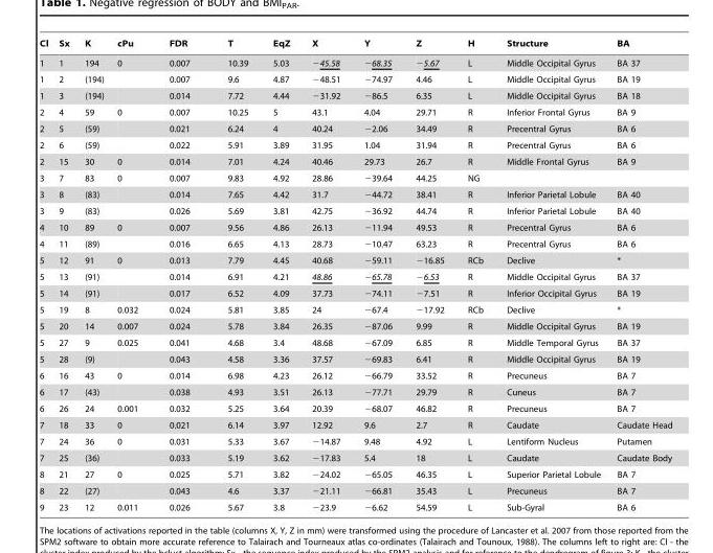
<table><thead><tr><td>Cl</td><td>Sx</td><td>K</td><td>cPu</td><td>FDR</td><td>T</td><td>EqZ</td><td>X</td><td>Y</td><td>Z</td><td>H</td><td>Structure</td><td>BA</td></tr></thead><tbody><tr><td>1</td><td>1</td><td>194</td><td>0</td><td>0.007</td><td>10.39</td><td>5.03</td><td>−45.58</td><td>−68.35</td><td>−5.67</td><td>L</td><td>Middle Occipital Gyrus</td><td>BA 37</td></tr><tr><td>1</td><td>2</td><td>(194)</td><td></td><td>0.007</td><td>9.6</td><td>4.87</td><td>−48.51</td><td>−74.97</td><td>4.46</td><td>L</td><td>Middle Occipital Gyrus</td><td>BA 19</td></tr><tr><td>1</td><td>3</td><td>(194)</td><td></td><td>0.014</td><td>7.72</td><td>4.44</td><td>−31.92</td><td>−86.5</td><td>6.35</td><td>L</td><td>Middle Occipital Gyrus</td><td>BA 18</td></tr><tr><td>2</td><td>4</td><td>59</td><td>0</td><td>0.007</td><td>10.25</td><td>5</td><td>43.1</td><td>4.04</td><td>29.71</td><td>R</td><td>Inferior Frontal Gyrus</td><td>BA 9</td></tr><tr><td>2</td><td>5</td><td>(59)</td><td></td><td>0.021</td><td>6.24</td><td>4</td><td>40.24</td><td>−2.06</td><td>34.49</td><td>R</td><td>Precentral Gyrus</td><td>BA 6</td></tr><tr><td>2</td><td>6</td><td>(59)</td><td></td><td>0.022</td><td>5.91</td><td>3.89</td><td>31.95</td><td>1.04</td><td>31.94</td><td>R</td><td>Precentral Gyrus</td><td>BA 6</td></tr><tr><td>2</td><td>15</td><td>30</td><td>0</td><td>0.014</td><td>7.01</td><td>4.24</td><td>40.46</td><td>29.73</td><td>26.7</td><td>R</td><td>Middle Frontal Gyrus</td><td>BA 9</td></tr><tr><td>3</td><td>7</td><td>83</td><td>0</td><td>0.007</td><td>9.83</td><td>4.92</td><td>28.86</td><td>−39.64</td><td>44.25</td><td>NG</td><td></td><td></td></tr><tr><td>3</td><td>8</td><td>(83)</td><td></td><td>0.014</td><td>7.65</td><td>4.42</td><td>31.7</td><td>−44.72</td><td>38.41</td><td>R</td><td>Inferior Parietal Lobule</td><td>BA 40</td></tr><tr><td>3</td><td>9</td><td>(83)</td><td></td><td>0.026</td><td>5.69</td><td>3.81</td><td>42.75</td><td>−36.92</td><td>44.74</td><td>R</td><td>Inferior Parietal Lobule</td><td>BA 40</td></tr><tr><td>4</td><td>10</td><td>89</td><td>0</td><td>0.007</td><td>9.56</td><td>4.86</td><td>26.13</td><td>−11.94</td><td>49.53</td><td>R</td><td>Precentral Gyrus</td><td>BA 6</td></tr><tr><td>4</td><td>11</td><td>(89)</td><td></td><td>0.016</td><td>6.65</td><td>4.13</td><td>28.73</td><td>−10.47</td><td>63.23</td><td>R</td><td>Precentral Gyrus</td><td>BA 6</td></tr><tr><td>5</td><td>12</td><td>91</td><td>0</td><td>0.013</td><td>7.79</td><td>4.45</td><td>40.68</td><td>−59.11</td><td>−16.85</td><td>RCb</td><td>Declive</td><td>*</td></tr><tr><td>5</td><td>13</td><td>(91)</td><td></td><td>0.014</td><td>6.91</td><td>4.21</td><td>48.86</td><td>−65.78</td><td>−6.53</td><td>R</td><td>Middle Occipital Gyrus</td><td>BA 37</td></tr><tr><td>5</td><td>14</td><td>(91)</td><td></td><td>0.017</td><td>6.52</td><td>4.09</td><td>37.73</td><td>−74.11</td><td>−7.51</td><td>R</td><td>Inferior Occipital Gyrus</td><td>BA 19</td></tr><tr><td>5</td><td>19</td><td>8</td><td>0.032</td><td>0.024</td><td>5.81</td><td>3.85</td><td>24</td><td>−67.4</td><td>−17.92</td><td>RCb</td><td>Declive</td><td>*</td></tr><tr><td>5</td><td>20</td><td>14</td><td>0.007</td><td>0.024</td><td>5.78</td><td>3.84</td><td>26.35</td><td>−87.06</td><td>9.99</td><td>R</td><td>Middle Occipital Gyrus</td><td>BA 19</td></tr><tr><td>5</td><td>27</td><td>9</td><td>0.025</td><td>0.041</td><td>4.68</td><td>3.4</td><td>48.68</td><td>−67.09</td><td>6.85</td><td>R</td><td>Middle Temporal Gyrus</td><td>BA 37</td></tr><tr><td>5</td><td>28</td><td>(9)</td><td></td><td>0.043</td><td>4.58</td><td>3.36</td><td>37.57</td><td>−69.83</td><td>6.41</td><td>R</td><td>Middle Occipital Gyrus</td><td>BA 19</td></tr><tr><td>6</td><td>16</td><td>43</td><td>0</td><td>0.014</td><td>6.98</td><td>4.23</td><td>26.12</td><td>−66.79</td><td>33.52</td><td>R</td><td>Precuneus</td><td>BA 7</td></tr><tr><td>6</td><td>17</td><td>(43)</td><td></td><td>0.038</td><td>4.93</td><td>3.51</td><td>26.13</td><td>−77.71</td><td>29.79</td><td>R</td><td>Cuneus</td><td>BA 7</td></tr><tr><td>6</td><td>26</td><td>24</td><td>0.001</td><td>0.032</td><td>5.25</td><td>3.64</td><td>20.39</td><td>−68.07</td><td>46.82</td><td>R</td><td>Precuneus</td><td>BA 7</td></tr><tr><td>7</td><td>18</td><td>33</td><td>0</td><td>0.021</td><td>6.14</td><td>3.97</td><td>12.92</td><td>9.6</td><td>2.7</td><td>R</td><td>Caudate</td><td>Caudate Head</td></tr><tr><td>7</td><td>24</td><td>36</td><td>0</td><td>0.031</td><td>5.33</td><td>3.67</td><td>−14.87</td><td>9.48</td><td>4.92</td><td>L</td><td>Lentiform Nucleus</td><td>Putamen</td></tr><tr><td>7</td><td>25</td><td>(36)</td><td></td><td>0.033</td><td>5.19</td><td>3.62</td><td>−17.83</td><td>5.4</td><td>18</td><td>L</td><td>Caudate</td><td>Caudate Body</td></tr><tr><td>8</td><td>21</td><td>27</td><td>0</td><td>0.025</td><td>5.71</td><td>3.82</td><td>−24.02</td><td>−65.05</td><td>46.35</td><td>L</td><td>Superior Parietal Lobule</td><td>BA 7</td></tr><tr><td>8</td><td>22</td><td>(27)</td><td></td><td>0.043</td><td>4.6</td><td>3.37</td><td>−21.11</td><td>−66.81</td><td>35.43</td><td>L</td><td>Precuneus</td><td>BA 7</td></tr><tr><td>9</td><td>23</td><td>12</td><td>0.011</td><td>0.026</td><td>5.67</td><td>3.8</td><td>−23.9</td><td>−6.62</td><td>54.59</td><td>L</td><td>Sub-Gyral</td><td>BA 6</td></tr></tbody></table>